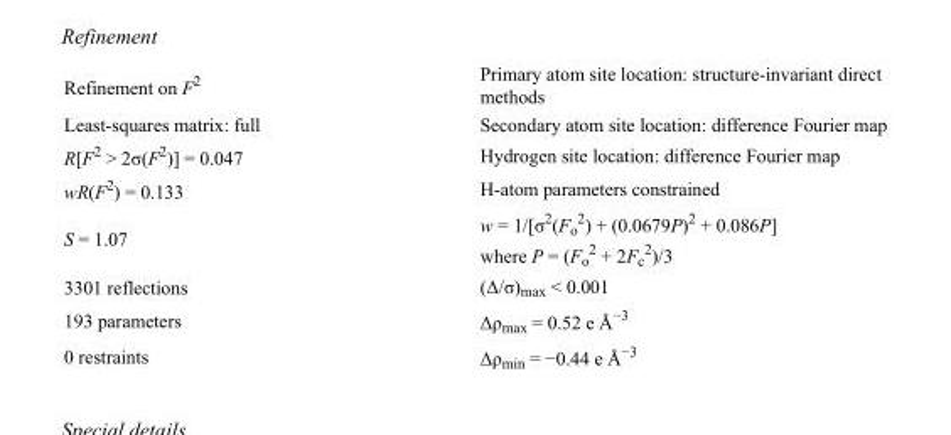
<table><tbody><tr><td>Refinement on F<sup>2</sup></td><td>Primary atom site location: structure-invariant direct methods</td></tr><tr><td>Least-squares matrix: full</td><td>Secondary atom site location: difference Fourier map</td></tr><tr><td>R[F<sup>2</sup> &gt; 2σ(F<sup>2</sup>)] = 0.047</td><td>Hydrogen site location: difference Fourier map</td></tr><tr><td>wR(F<sup>2</sup>) = 0.133</td><td>H-atom parameters constrained</td></tr><tr><td>S = 1.07</td><td>w = 1/[σ<sup>2</sup>(F<sub>o</sub> <sup>2</sup>) + (0.0679P)<sup>2</sup> + 0.086P] where P = (F<sub>o</sub> <sup>2</sup> + 2F<sub>c</sub> <sup>2</sup>)/3</td></tr><tr><td>3301 reflections</td><td>(Δ/σ)<sub>max</sub> &lt; 0.001</td></tr><tr><td>193 parameters</td><td>Δρ<sub>max</sub> = 0.52 e Å<sup>−3</sup></td></tr><tr><td>0 restraints</td><td>Δρ<sub>min</sub> = −0.44 e Å<sup>−3</sup></td></tr></tbody></table>